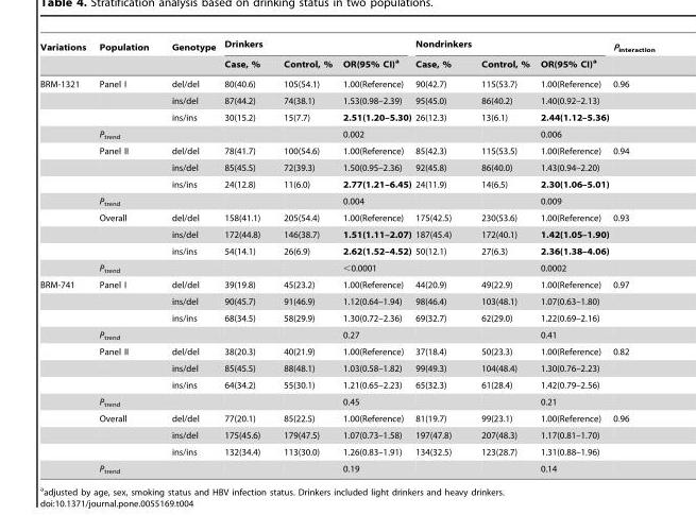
<table><thead><tr><td rowspan="2">Variations</td><td rowspan="2">Population</td><td rowspan="2">Genotype</td><td colspan="3">Drinkers</td><td colspan="3">Nondrinkers</td><td rowspan="2">P<sub>interaction</sub></td></tr><tr><td>Case, %</td><td>Control, %</td><td>OR(95% CI)<sup>a</sup></td><td>Case, %</td><td>Control, %</td><td>OR(95% CI)<sup>a</sup></td></tr></thead><tbody><tr><td rowspan="12">BRM-1321</td><td>Panel I</td><td>del/del</td><td>80(40.6)</td><td>105(54.1)</td><td>1.00(Reference)</td><td>90(42.7)</td><td>115(53.7)</td><td>1.00(Reference)</td><td>0.96</td></tr><tr><td></td><td>ins/del</td><td>87(44.2)</td><td>74(38.1)</td><td>1.53(0.98–2.39)</td><td>95(45.0)</td><td>86(40.2)</td><td>1.40(0.92–2.13)</td><td></td></tr><tr><td></td><td>ins/ins</td><td>30(15.2)</td><td>15(7.7)</td><td>2.51(1.20–5.30)</td><td>26(12.3)</td><td>13(6.1)</td><td>2.44(1.12–5.36)</td><td></td></tr><tr><td>P<sub>trend</sub></td><td></td><td></td><td></td><td>0.002</td><td></td><td></td><td>0.006</td><td></td></tr><tr><td>Panel II</td><td>del/del</td><td>78(41.7)</td><td>100(54.6)</td><td>1.00(Reference)</td><td>85(42.3)</td><td>115(53.5)</td><td>1.00(Reference)</td><td>0.94</td></tr><tr><td></td><td>ins/del</td><td>85(45.5)</td><td>72(39.3)</td><td>1.50(0.95–2.36)</td><td>92(45.8)</td><td>86(40.0)</td><td>1.43(0.94–2.20)</td><td></td></tr><tr><td></td><td>ins/ins</td><td>24(12.8)</td><td>11(6.0)</td><td>2.77(1.21–6.45)</td><td>24(11.9)</td><td>14(6.5)</td><td>2.30(1.06–5.01)</td><td></td></tr><tr><td>P<sub>trend</sub></td><td></td><td></td><td></td><td>0.004</td><td></td><td></td><td>0.009</td><td></td></tr><tr><td>Overall</td><td>del/del</td><td>158(41.1)</td><td>205(54.4)</td><td>1.00(Reference)</td><td>175(42.5)</td><td>230(53.6)</td><td>1.00(Reference)</td><td>0.93</td></tr><tr><td></td><td>ins/del</td><td>172(44.8)</td><td>146(38.7)</td><td>1.51(1.11–2.07)</td><td>187(45.4)</td><td>172(40.1)</td><td>1.42(1.05–1.90)</td><td></td></tr><tr><td></td><td>ins/ins</td><td>54(14.1)</td><td>26(6.9)</td><td>2.62(1.52–4.52)</td><td>50(12.1)</td><td>27(6.3)</td><td>2.36(1.38–4.06)</td><td></td></tr><tr><td>P<sub>trend</sub></td><td></td><td></td><td></td><td>&lt;0.0001</td><td></td><td></td><td>0.0002</td><td></td></tr><tr><td rowspan="12">BRM-741</td><td>Panel I</td><td>del/del</td><td>39(19.8)</td><td>45(23.2)</td><td>1.00(Reference)</td><td>44(20.9)</td><td>49(22.9)</td><td>1.00(Reference)</td><td>0.97</td></tr><tr><td></td><td>ins/del</td><td>90(45.7)</td><td>91(46.9)</td><td>1.12(0.64–1.94)</td><td>98(46.4)</td><td>103(48.1)</td><td>1.07(0.63–1.80)</td><td></td></tr><tr><td></td><td>ins/ins</td><td>68(34.5)</td><td>58(29.9)</td><td>1.30(0.72–2.36)</td><td>69(32.7)</td><td>62(29.0)</td><td>1.22(0.69–2.16)</td><td></td></tr><tr><td>P<sub>trend</sub></td><td></td><td></td><td></td><td>0.27</td><td></td><td></td><td>0.41</td><td></td></tr><tr><td>Panel II</td><td>del/del</td><td>38(20.3)</td><td>40(21.9)</td><td>1.00(Reference)</td><td>37(18.4)</td><td>50(23.3)</td><td>1.00(Reference)</td><td>0.82</td></tr><tr><td></td><td>ins/del</td><td>85(45.5)</td><td>88(48.1)</td><td>1.03(0.58–1.82)</td><td>99(49.3)</td><td>104(48.4)</td><td>1.30(0.76–2.23)</td><td></td></tr><tr><td></td><td>ins/ins</td><td>64(34.2)</td><td>55(30.1)</td><td>1.21(0.65–2.23)</td><td>65(32.3)</td><td>61(28.4)</td><td>1.42(0.79–2.56)</td><td></td></tr><tr><td>P<sub>trend</sub></td><td></td><td></td><td></td><td>0.45</td><td></td><td></td><td>0.21</td><td></td></tr><tr><td>Overall</td><td>del/del</td><td>77(20.1)</td><td>85(22.5)</td><td>1.00(Reference)</td><td>81(19.7)</td><td>99(23.1)</td><td>1.00(Reference)</td><td>0.96</td></tr><tr><td></td><td>ins/del</td><td>175(45.6)</td><td>179(47.5)</td><td>1.07(0.73–1.58)</td><td>197(47.8)</td><td>207(48.3)</td><td>1.17(0.81–1.70)</td><td></td></tr><tr><td></td><td>ins/ins</td><td>132(34.4)</td><td>113(30.0)</td><td>1.26(0.83–1.91)</td><td>134(32.5)</td><td>123(28.7)</td><td>1.31(0.88–1.96)</td><td></td></tr><tr><td>P<sub>trend</sub></td><td></td><td></td><td></td><td>0.19</td><td></td><td></td><td>0.14</td><td></td></tr></tbody></table>